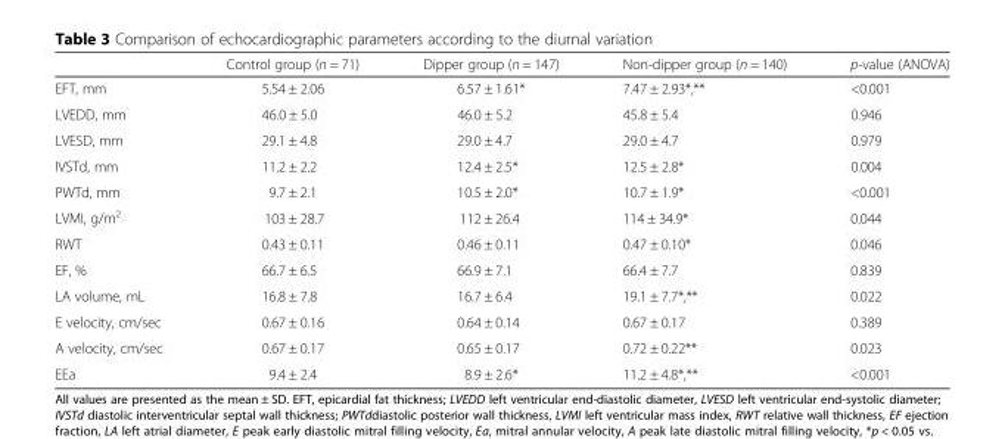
<table><thead><tr><td></td><td>Control group (n = 71)</td><td>Dipper group (n = 147)</td><td>Non-dipper group (n = 140)</td><td>p-value (ANOVA)</td></tr></thead><tbody><tr><td>EFT, mm</td><td>5.54 ± 2.06</td><td>6.57 ± 1.61*</td><td>7.47 ± 2.93*,**</td><td>&lt;0.001</td></tr><tr><td>LVEDD, mm</td><td>46.0 ± 5.0</td><td>46.0 ± 5.2</td><td>45.8 ± 5.4</td><td>0.946</td></tr><tr><td>LVESD, mm</td><td>29.1 ± 4.8</td><td>29.0 ± 4.7</td><td>29.0 ± 4.7</td><td>0.979</td></tr><tr><td>IVSTd, mm</td><td>11.2 ± 2.2</td><td>12.4 ± 2.5*</td><td>12.5 ± 2.8*</td><td>0.004</td></tr><tr><td>PWTd, mm</td><td>9.7 ± 2.1</td><td>10.5 ± 2.0*</td><td>10.7 ± 1.9*</td><td>&lt;0.001</td></tr><tr><td>LVMI, g/m<sup>2</sup></td><td>103 ± 28.7</td><td>112 ± 26.4</td><td>114 ± 34.9*</td><td>0.044</td></tr><tr><td>RWT</td><td>0.43 ± 0.11</td><td>0.46 ± 0.11</td><td>0.47 ± 0.10*</td><td>0.046</td></tr><tr><td>EF, %</td><td>66.7 ± 6.5</td><td>66.9 ± 7.1</td><td>66.4 ± 7.7</td><td>0.839</td></tr><tr><td>LA volume, mL</td><td>16.8 ± 7.8</td><td>16.7 ± 6.4</td><td>19.1 ± 7.7*,**</td><td>0.022</td></tr><tr><td>E velocity, cm/sec</td><td>0.67 ± 0.16</td><td>0.64 ± 0.14</td><td>0.67 ± 0.17</td><td>0.389</td></tr><tr><td>A velocity, cm/sec</td><td>0.67 ± 0.17</td><td>0.65 ± 0.17</td><td>0.72 ± 0.22**</td><td>0.023</td></tr><tr><td>EEa</td><td>9.4 ± 2.4</td><td>8.9 ± 2.6*</td><td>11.2 ± 4.8*,**</td><td>&lt;0.001</td></tr></tbody></table>